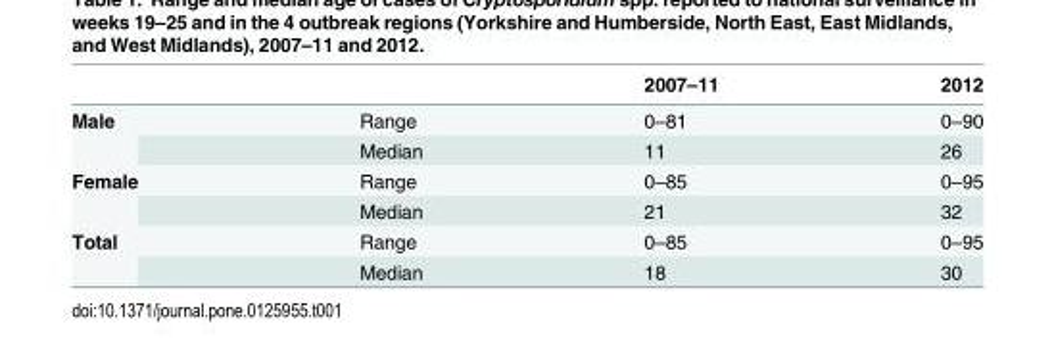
<table><thead><tr><td></td><td></td><td>2007–11</td><td>2012</td></tr></thead><tbody><tr><td rowspan="2">Male</td><td>Range</td><td>0–81</td><td>0–90</td></tr><tr><td>Median</td><td>11</td><td>26</td></tr><tr><td rowspan="2">Female</td><td>Range</td><td>0–85</td><td>0–95</td></tr><tr><td>Median</td><td>21</td><td>32</td></tr><tr><td rowspan="2">Total</td><td>Range</td><td>0–85</td><td>0–95</td></tr><tr><td>Median</td><td>18</td><td>30</td></tr></tbody></table>